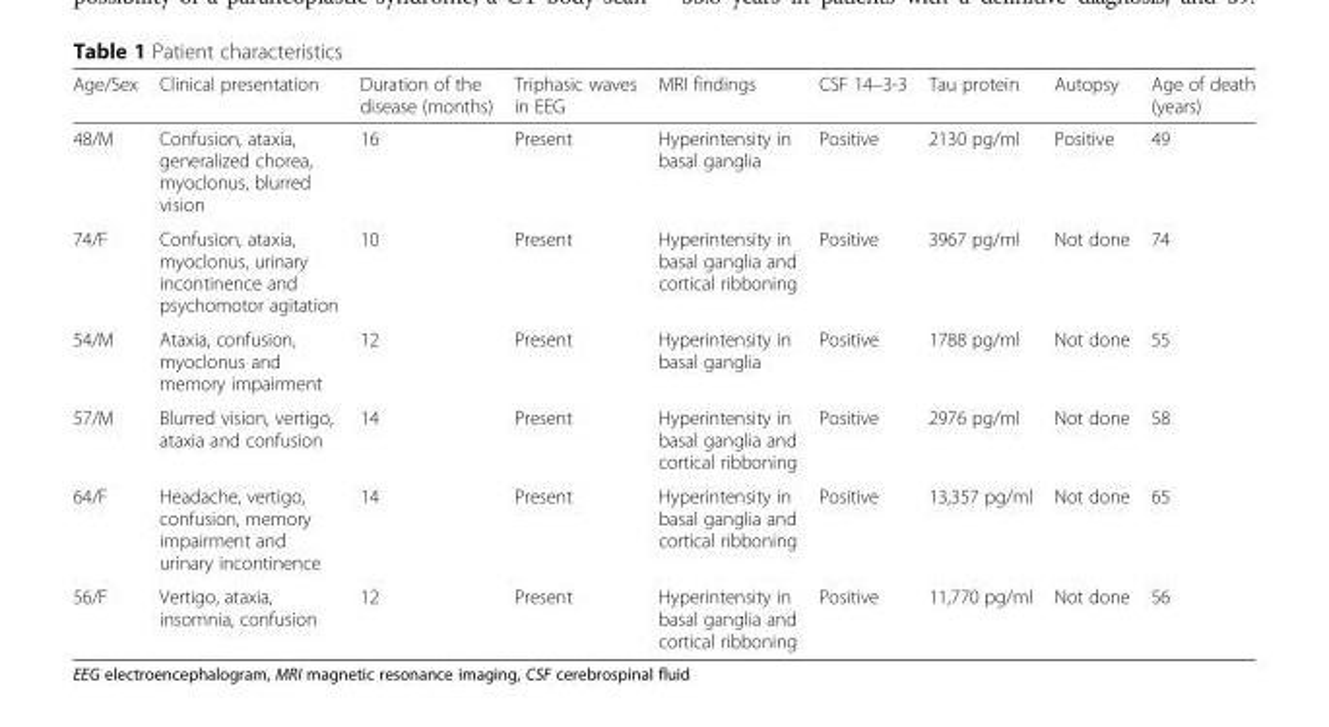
<table><thead><tr><td>Age/Sex</td><td>Clinical presentation</td><td>Duration of the disease (months)</td><td>Triphasic waves in EEG</td><td>MRI findings</td><td>CSF 14–3-3</td><td>Tau protein</td><td>Autopsy</td><td>Age of death (years)</td></tr></thead><tbody><tr><td>48/M</td><td>Confusion, ataxia, generalized chorea, myoclonus, blurred vision</td><td>16</td><td>Present</td><td>Hyperintensity in basal ganglia</td><td>Positive</td><td>2130 pg/ml</td><td>Positive</td><td>49</td></tr><tr><td>74/F</td><td>Confusion, ataxia, myoclonus, urinary incontinence and psychomotor agitation</td><td>10</td><td>Present</td><td>Hyperintensity in basal ganglia and cortical ribboning</td><td>Positive</td><td>3967 pg/ml</td><td>Not done</td><td>74</td></tr><tr><td>54/M</td><td>Ataxia, confusion, myoclonus and memory impairment</td><td>12</td><td>Present</td><td>Hyperintensity in basal ganglia</td><td>Positive</td><td>1788 pg/ml</td><td>Not done</td><td>55</td></tr><tr><td>57/M</td><td>Blurred vision, vertigo, ataxia and confusion</td><td>14</td><td>Present</td><td>Hyperintensity in basal ganglia and cortical ribboning</td><td>Positive</td><td>2976 pg/ml</td><td>Not done</td><td>58</td></tr><tr><td>64/F</td><td>Headache, vertigo, confusion, memory impairment and urinary incontinence</td><td>14</td><td>Present</td><td>Hyperintensity in basal ganglia and cortical ribboning</td><td>Positive</td><td>13,357 pg/ml</td><td>Not done</td><td>65</td></tr><tr><td>56/F</td><td>Vertigo, ataxia, insomnia, confusion</td><td>12</td><td>Present</td><td>Hyperintensity in basal ganglia and cortical ribboning</td><td>Positive</td><td>11,770 pg/ml</td><td>Not done</td><td>56</td></tr></tbody></table>